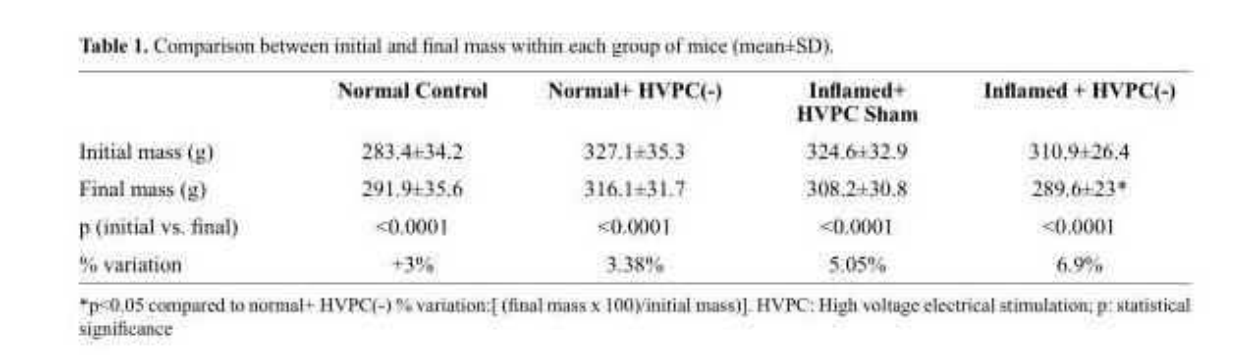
<table><thead><tr><td></td><td>Normal Control</td><td>Normal+ HVPC(-)</td><td>Inflamed+ HVPC Sham</td><td>Inflamed + HVPC(-)</td></tr></thead><tbody><tr><td>Initial mass (g)</td><td>283.4±34.2</td><td>327.1±35.3</td><td>324.6±32.9</td><td>310.9±26.4</td></tr><tr><td>Final mass (g)</td><td>291.9±35.6</td><td>316.1±31.7</td><td>308.2±30.8</td><td>289.6±23*</td></tr><tr><td>p (initial vs. final)</td><td>&lt;0.0001</td><td>&lt;0.0001</td><td>&lt;0.0001</td><td>&lt;0.0001</td></tr><tr><td>% variation</td><td>+3%</td><td>3.38%</td><td>5.05%</td><td>6.9%</td></tr></tbody></table>